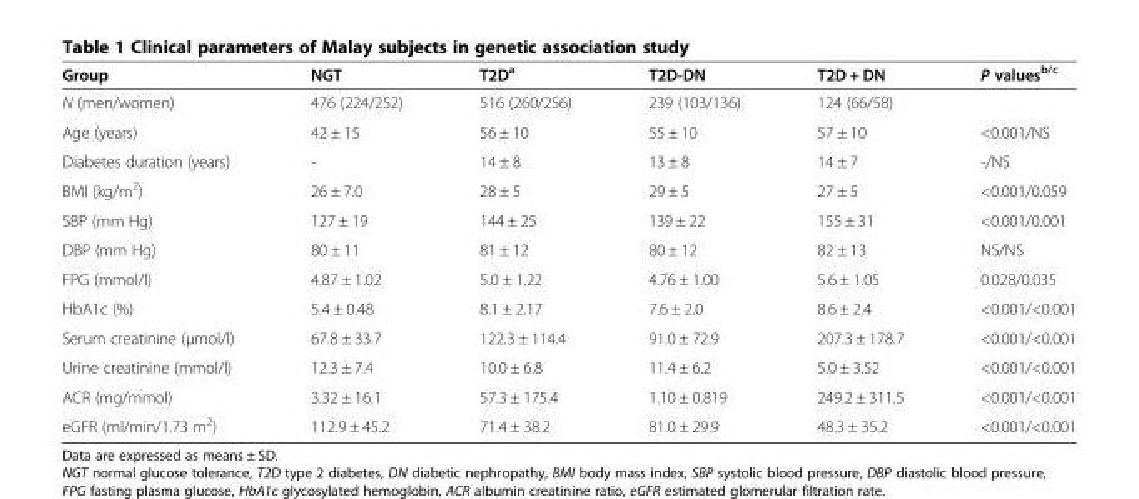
<table><thead><tr><td>Group</td><td>NGT</td><td>T2D<sup>a</sup></td><td>T2D-DN</td><td>T2D + DN</td><td>P values<sup>b/c</sup></td></tr></thead><tbody><tr><td>N (men/women)</td><td>476 (224/252)</td><td>516 (260/256)</td><td>239 (103/136)</td><td>124 (66/58)</td><td></td></tr><tr><td>Age (years)</td><td>42 ± 15</td><td>56 ± 10</td><td>55 ± 10</td><td>57 ± 10</td><td>&lt;0.001/NS</td></tr><tr><td>Diabetes duration (years)</td><td>-</td><td>14 ± 8</td><td>13 ± 8</td><td>14 ± 7</td><td>-/NS</td></tr><tr><td>BMI (kg/m<sup>2</sup>)</td><td>26 ± 7.0</td><td>28 ± 5</td><td>29 ± 5</td><td>27 ± 5</td><td>&lt;0.001/0.059</td></tr><tr><td>SBP (mm Hg)</td><td>127 ± 19</td><td>144 ± 25</td><td>139 ± 22</td><td>155 ± 31</td><td>&lt;0.001/0.001</td></tr><tr><td>DBP (mm Hg)</td><td>80 ± 11</td><td>81 ± 12</td><td>80 ± 12</td><td>82 ± 13</td><td>NS/NS</td></tr><tr><td>FPG (mmol/l)</td><td>4.87 ± 1.02</td><td>5.0 ± 1.22</td><td>4.76 ± 1.00</td><td>5.6 ± 1.05</td><td>0.028/0.035</td></tr><tr><td>HbA1c (%)</td><td>5.4 ± 0.48</td><td>8.1 ± 2.17</td><td>7.6 ± 2.0</td><td>8.6 ± 2.4</td><td>&lt;0.001/&lt;0.001</td></tr><tr><td>Serum creatinine (μmol/l)</td><td>67.8 ± 33.7</td><td>122.3 ± 114.4</td><td>91.0 ± 72.9</td><td>207.3 ± 178.7</td><td>&lt;0.001/&lt;0.001</td></tr><tr><td>Urine creatinine (mmol/l)</td><td>12.3 ± 7.4</td><td>10.0 ± 6.8</td><td>11.4 ± 6.2</td><td>5.0 ± 3.52</td><td>&lt;0.001/&lt;0.001</td></tr><tr><td>ACR (mg/mmol)</td><td>3.32 ± 16.1</td><td>57.3 ± 175.4</td><td>1.10 ± 0.819</td><td>249.2 ± 311.5</td><td>&lt;0.001/&lt;0.001</td></tr><tr><td>eGFR (ml/min/1.73 m<sup>2</sup>)</td><td>112.9 ± 45.2</td><td>71.4 ± 38.2</td><td>81.0 ± 29.9</td><td>48.3 ± 35.2</td><td>&lt;0.001/&lt;0.001</td></tr></tbody></table>